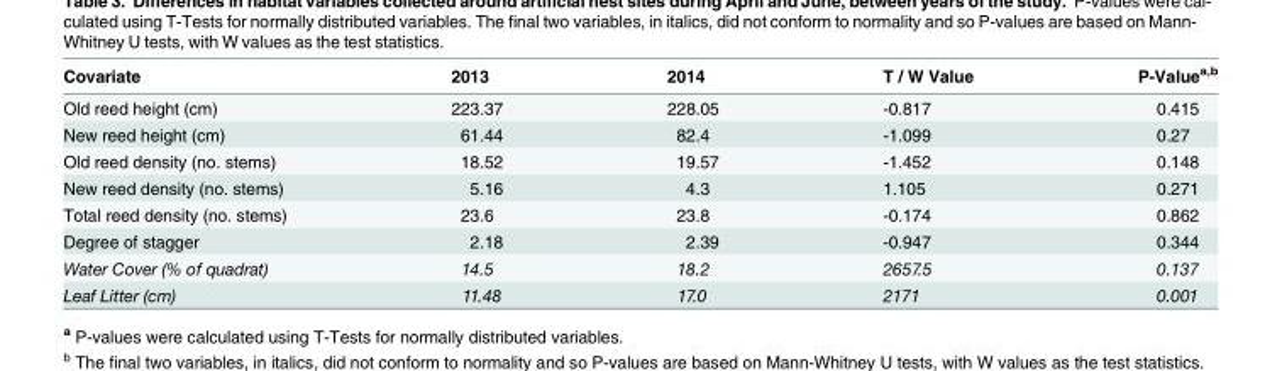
<table><thead><tr><td>Covariate</td><td>2013</td><td>2014</td><td>T / W Value</td><td>P-Value<sup>a,b</sup></td></tr></thead><tbody><tr><td>Old reed height (cm)</td><td>223.37</td><td>228.05</td><td>-0.817</td><td>0.415</td></tr><tr><td>New reed height (cm)</td><td>61.44</td><td>82.4</td><td>-1.099</td><td>0.27</td></tr><tr><td>Old reed density (no. stems)</td><td>18.52</td><td>19.57</td><td>-1.452</td><td>0.148</td></tr><tr><td>New reed density (no. stems)</td><td>5.16</td><td>4.3</td><td>1.105</td><td>0.271</td></tr><tr><td>Total reed density (no. stems)</td><td>23.6</td><td>23.8</td><td>-0.174</td><td>0.862</td></tr><tr><td>Degree of stagger</td><td>2.18</td><td>2.39</td><td>-0.947</td><td>0.344</td></tr><tr><td>Water Cover (% of quadrat)</td><td>14.5</td><td>18.2</td><td>2657.5</td><td>0.137</td></tr><tr><td>Leaf Litter (cm)</td><td>11.48</td><td>17.0</td><td>2171</td><td>0.001</td></tr></tbody></table>